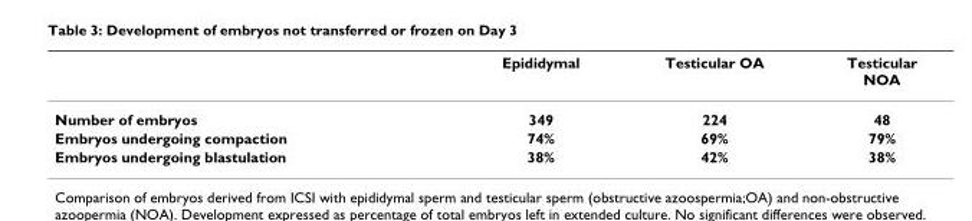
<table><thead><tr><td></td><td>Epididymal</td><td>Testicular OA</td><td>Testicular NOA</td></tr></thead><tbody><tr><td>Number of embryos</td><td>349</td><td>224</td><td>48</td></tr><tr><td>Embryos undergoing compaction</td><td>74%</td><td>69%</td><td>79%</td></tr><tr><td>Embryos undergoing blastulation</td><td>38%</td><td>42%</td><td>38%</td></tr></tbody></table>